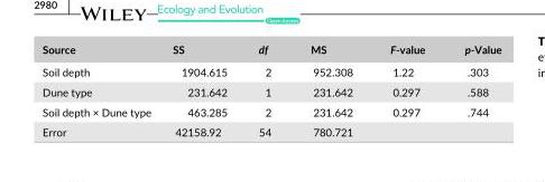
<table><thead><tr><td>Source</td><td>SS</td><td>df</td><td>MS</td><td>F-value</td><td>p-Value</td></tr></thead><tbody><tr><td>Soil depth</td><td>1904.615</td><td>2</td><td>952.308</td><td>1.22</td><td>.303</td></tr><tr><td>Dune type</td><td>231.642</td><td>1</td><td>231.642</td><td>0.297</td><td>.588</td></tr><tr><td>Soil depth × Dune type</td><td>463.285</td><td>2</td><td>231.642</td><td>0.297</td><td>.744</td></tr><tr><td>Error</td><td>42158.92</td><td>54</td><td>780.721</td><td></td><td></td></tr></tbody></table>